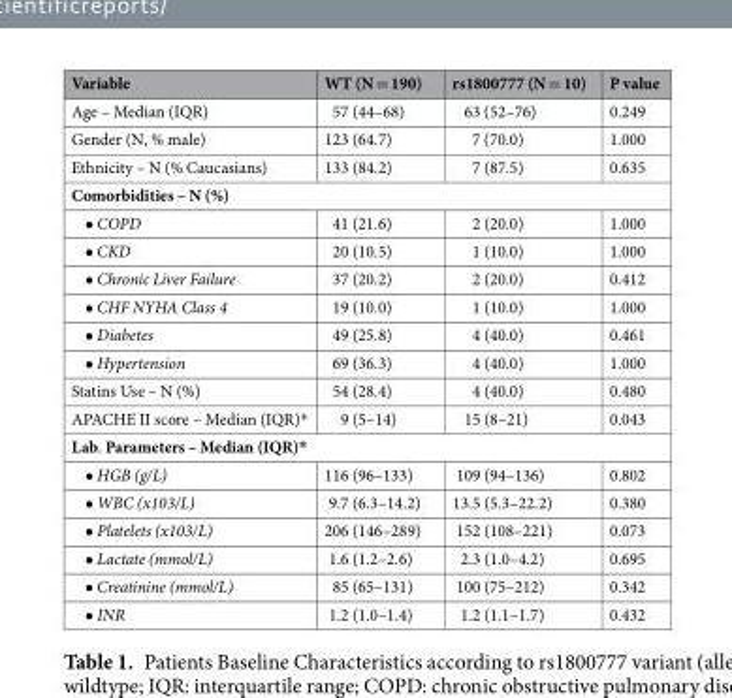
<table><thead><tr><td>Variable</td><td>WT (N = 190)</td><td>rs1800777 (N = 10)</td><td>P value</td></tr></thead><tbody><tr><td>Age – Median (IQR)</td><td>57 (44–68)</td><td>63 (52–76)</td><td>0.249</td></tr><tr><td>Gender (N, % male)</td><td>123 (64.7)</td><td>7 (70.0)</td><td>1.000</td></tr><tr><td>Ethnicity – N (% Caucasians)</td><td>133 (84.2)</td><td>7 (87.5)</td><td>0.635</td></tr><tr><td colspan="4">Comorbidities – N (%)</td></tr><tr><td>• COPD</td><td>41 (21.6)</td><td>2 (20.0)</td><td>1.000</td></tr><tr><td>• CKD</td><td>20 (10.5)</td><td>1 (10.0)</td><td>1.000</td></tr><tr><td>• Chronic Liver Failure</td><td>37 (20.2)</td><td>2 (20.0)</td><td>0.412</td></tr><tr><td>• CHF NYHA Class 4</td><td>19 (10.0)</td><td>1 (10.0)</td><td>1.000</td></tr><tr><td>• Diabetes</td><td>49 (25.8)</td><td>4 (40.0)</td><td>0.461</td></tr><tr><td>• Hypertension</td><td>69 (36.3)</td><td>4 (40.0)</td><td>1.000</td></tr><tr><td>Statins Use – N (%)</td><td>54 (28.4)</td><td>4 (40.0)</td><td>0.480</td></tr><tr><td>APACHE II score – Median (IQR)*</td><td>9 (5–14)</td><td>15 (8–21)</td><td>0.043</td></tr><tr><td colspan="4">Lab. Parameters – Median (IQR)*</td></tr><tr><td>• HGB (g/L)</td><td>116 (96–133)</td><td>109 (94–136)</td><td>0.802</td></tr><tr><td>• WBC (x103/L)</td><td>9.7 (6.3–14.2)</td><td>13.5 (5.3–22.2)</td><td>0.380</td></tr><tr><td>• Platelets (x103/L)</td><td>206 (146–289)</td><td>152 (108–221)</td><td>0.073</td></tr><tr><td>• Lactate (mmol/L)</td><td>1.6 (1.2–2.6)</td><td>2.3 (1.0–4.2)</td><td>0.695</td></tr><tr><td>• Creatinine (mmol/L)</td><td>85 (65–131)</td><td>100 (75–212)</td><td>0.342</td></tr><tr><td>• INR</td><td>1.2 (1.0–1.4)</td><td>1.2 (1.1–1.7)</td><td>0.432</td></tr></tbody></table>